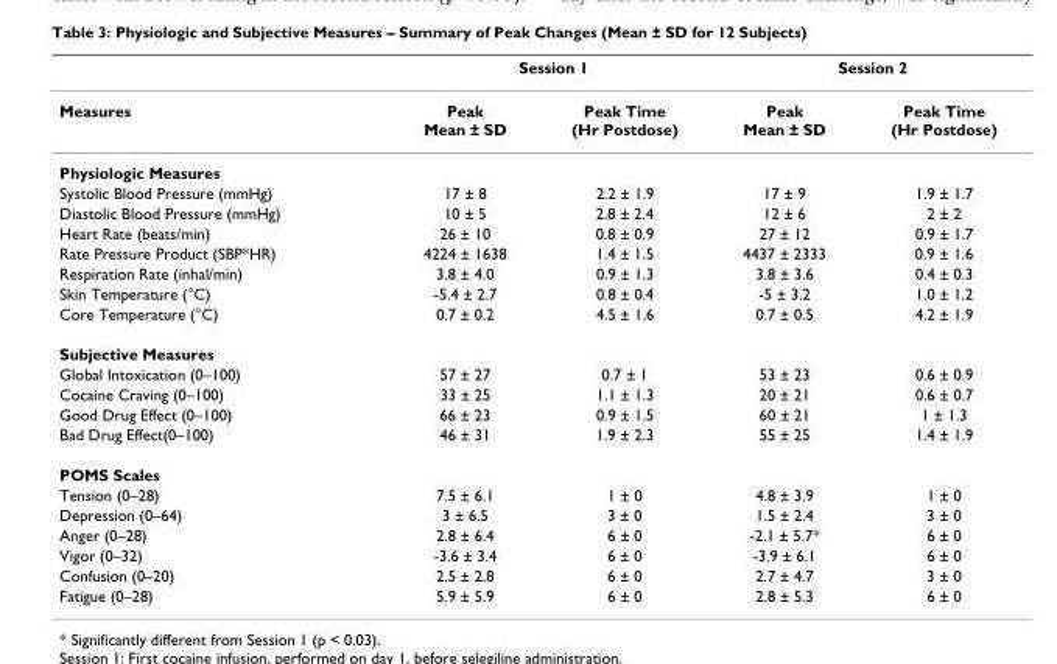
<table><thead><tr><td rowspan="2">Measures</td><td colspan="2">Session 1</td><td colspan="2">Session 2</td></tr><tr><td>Peak Mean ± SD</td><td>Peak Time (Hr Postdose)</td><td>Peak Mean ± SD</td><td>Peak Time (Hr Postdose)</td></tr></thead><tbody><tr><td colspan="5">Physiologic Measures</td></tr><tr><td>Systolic Blood Pressure (mmHg)</td><td>17 ± 8</td><td>2.2 ± 1.9</td><td>17 ± 9</td><td>1.9 ± 1.7</td></tr><tr><td>Diastolic Blood Pressure (mmHg)</td><td>10 ± 5</td><td>2.8 ± 2.4</td><td>12 ± 6</td><td>2 ± 2</td></tr><tr><td>Heart Rate (beats/min)</td><td>26 ± 10</td><td>0.8 ± 0.9</td><td>27 ± 12</td><td>0.9 ± 1.7</td></tr><tr><td>Rate Pressure Product (SBP*HR)</td><td>4224 ± 1638</td><td>1.4 ± 1.5</td><td>4437 ± 2333</td><td>0.9 ± 1.6</td></tr><tr><td>Respiration Rate (inhal/min)</td><td>3.8 ± 4.0</td><td>0.9 ± 1.3</td><td>3.8 ± 3.6</td><td>0.4 ± 0.3</td></tr><tr><td>Skin Temperature (°C)</td><td>-5.4 ± 2.7</td><td>0.8 ± 0.4</td><td>-5 ± 3.2</td><td>1.0 ± 1.2</td></tr><tr><td>Core Temperature (°C)</td><td>0.7 ± 0.2</td><td>4.5 ± 1.6</td><td>0.7 ± 0.5</td><td>4.2 ± 1.9</td></tr><tr><td colspan="5">Subjective Measures</td></tr><tr><td>Global Intoxication (0–100)</td><td>57 ± 27</td><td>0.7 ± 1</td><td>53 ± 23</td><td>0.6 ± 0.9</td></tr><tr><td>Cocaine Craving (0–100)</td><td>33 ± 25</td><td>1.1 ± 1.3</td><td>20 ± 21</td><td>0.6 ± 0.7</td></tr><tr><td>Good Drug Effect (0–100)</td><td>66 ± 23</td><td>0.9 ± 1.5</td><td>60 ± 21</td><td>1 ± 1.3</td></tr><tr><td>Bad Drug Effect(0–100)</td><td>46 ± 31</td><td>1.9 ± 2.3</td><td>55 ± 25</td><td>1.4 ± 1.9</td></tr><tr><td colspan="5">POMS Scales</td></tr><tr><td>Tension (0–28)</td><td>7.5 ± 6.1</td><td>1 ± 0</td><td>4.8 ± 3.9</td><td>1 ± 0</td></tr><tr><td>Depression (0–64)</td><td>3 ± 6.5</td><td>3 ± 0</td><td>1.5 ± 2.4</td><td>3 ± 0</td></tr><tr><td>Anger (0–28)</td><td>2.8 ± 6.4</td><td>6 ± 0</td><td>-2.1 ± 5.7*</td><td>6 ± 0</td></tr><tr><td>Vigor (0–32)</td><td>-3.6 ± 3.4</td><td>6 ± 0</td><td>-3.9 ± 6.1</td><td>6 ± 0</td></tr><tr><td>Confusion (0–20)</td><td>2.5 ± 2.8</td><td>6 ± 0</td><td>2.7 ± 4.7</td><td>3 ± 0</td></tr><tr><td>Fatigue (0–28)</td><td>5.9 ± 5.9</td><td>6 ± 0</td><td>2.8 ± 5.3</td><td>6 ± 0</td></tr></tbody></table>